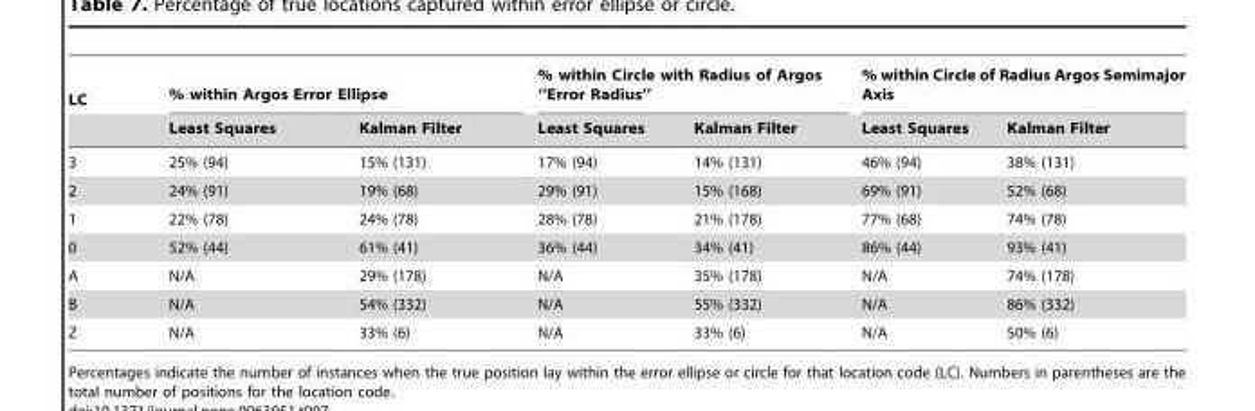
<table><thead><tr><td rowspan="2">LC</td><td colspan="2">% within Argos Error Ellipse</td><td colspan="2">% within Circle with Radius of Argos ‘‘Error Radius’’</td><td colspan="2">% within Circle of Radius Argos Semimajor Axis</td></tr><tr><td>Least Squares</td><td>Kalman Filter</td><td>Least Squares</td><td>Kalman Filter</td><td>Least Squares</td><td>Kalman Filter</td></tr></thead><tbody><tr><td>3</td><td>25% (94)</td><td>15% (131)</td><td>17% (94)</td><td>14% (131)</td><td>46% (94)</td><td>38% (131)</td></tr><tr><td>2</td><td>24% (91)</td><td>19% (68)</td><td>29% (91)</td><td>15% (168)</td><td>69% (91)</td><td>52% (68)</td></tr><tr><td>1</td><td>22% (78)</td><td>24% (78)</td><td>28% (78)</td><td>21% (178)</td><td>77% (68)</td><td>74% (78)</td></tr><tr><td>0</td><td>52% (44)</td><td>61% (41)</td><td>36% (44)</td><td>34% (41)</td><td>86% (44)</td><td>93% (41)</td></tr><tr><td>A</td><td>N/A</td><td>29% (178)</td><td>N/A</td><td>35% (178)</td><td>N/A</td><td>74% (178)</td></tr><tr><td>B</td><td>N/A</td><td>54% (332)</td><td>N/A</td><td>55% (332)</td><td>N/A</td><td>86% (332)</td></tr><tr><td>Z</td><td>N/A</td><td>33% (6)</td><td>N/A</td><td>33% (6)</td><td>N/A</td><td>50% (6)</td></tr></tbody></table>